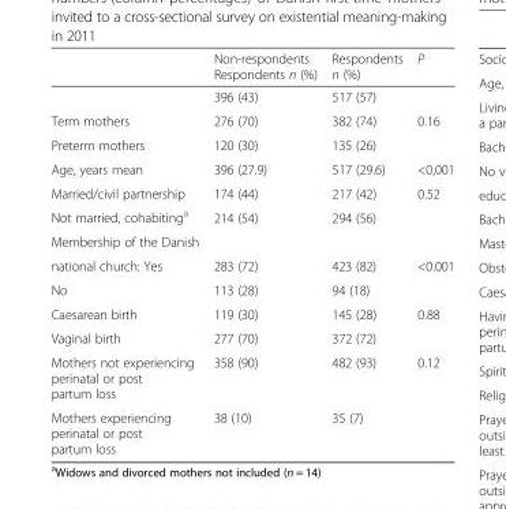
<table><thead><tr><td></td><td>Non-respondents Respondents n (%)</td><td>Respondents n (%)</td><td>P</td></tr></thead><tbody><tr><td></td><td>396 (43)</td><td>517 (57)</td><td></td></tr><tr><td>Term mothers</td><td>276 (70)</td><td>382 (74)</td><td>0.16</td></tr><tr><td>Preterm mothers</td><td>120 (30)</td><td>135 (26)</td><td></td></tr><tr><td>Age, years mean</td><td>396 (27.9)</td><td>517 (29.6)</td><td>&lt;0,001</td></tr><tr><td>Married/civil partnership</td><td>174 (44)</td><td>217 (42)</td><td>0.52</td></tr><tr><td>Not married, cohabiting<sup>a</sup></td><td>214 (54)</td><td>294 (56)</td><td></td></tr><tr><td colspan="4">Membership of the Danish</td></tr><tr><td>national church: Yes</td><td>283 (72)</td><td>423 (82)</td><td>&lt;0.001</td></tr><tr><td>No</td><td>113 (28)</td><td>94 (18)</td><td></td></tr><tr><td>Caesarean birth</td><td>119 (30)</td><td>145 (28)</td><td rowspan="2">0.88</td></tr><tr><td>Vaginal birth</td><td>277 (70)</td><td>372 (72)</td></tr><tr><td>Mothers not experiencing perinatal or post partum loss</td><td>358 (90)</td><td>482 (93)</td><td rowspan="2">0.12</td></tr><tr><td>Mothers experiencing perinatal or post partum loss</td><td>38 (10)</td><td>35 (7)</td></tr></tbody></table>